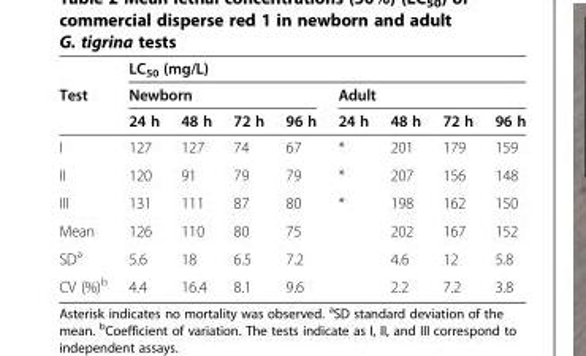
<table><thead><tr><td rowspan="3">Test</td><td colspan="8">LC<sub>50</sub> (mg/L)</td></tr><tr><td colspan="4">Newborn</td><td colspan="4">Adult</td></tr><tr><td>24 h</td><td>48 h</td><td>72 h</td><td>96 h</td><td>24 h</td><td>48 h</td><td>72 h</td><td>96 h</td></tr></thead><tbody><tr><td>I</td><td>127</td><td>127</td><td>74</td><td>67</td><td>*</td><td>201</td><td>179</td><td>159</td></tr><tr><td>II</td><td>120</td><td>91</td><td>79</td><td>79</td><td>*</td><td>207</td><td>156</td><td>148</td></tr><tr><td>III</td><td>131</td><td>111</td><td>87</td><td>80</td><td>*</td><td>198</td><td>162</td><td>150</td></tr><tr><td>Mean</td><td>126</td><td>110</td><td>80</td><td>75</td><td></td><td>202</td><td>167</td><td>152</td></tr><tr><td>SD<sup>a</sup></td><td>5.6</td><td>18</td><td>6.5</td><td>7.2</td><td></td><td>4.6</td><td>12</td><td>5.8</td></tr><tr><td>CV (%)<sup>b</sup></td><td>4.4</td><td>16.4</td><td>8.1</td><td>9.6</td><td></td><td>2.2</td><td>7.2</td><td>3.8</td></tr></tbody></table>